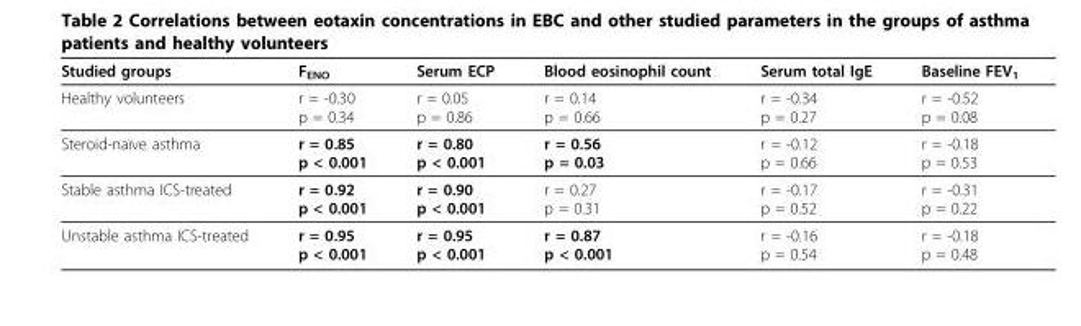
<table><thead><tr><td>Studied groups</td><td>F<sub>ENO</sub></td><td>Serum ECP</td><td>Blood eosinophil count</td><td>Serum total IgE</td><td>Baseline FEV<sub>1</sub></td></tr></thead><tbody><tr><td>Healthy volunteers</td><td>r = -0.30 p = 0.34</td><td>r = 0.05 p = 0.86</td><td>r = 0.14 p = 0.66</td><td>r = -0.34 p = 0.27</td><td>r = -0.52 p = 0.08</td></tr><tr><td>Steroid-naïve asthma</td><td>r = 0.85 p &lt; 0.001</td><td>r = 0.80 p &lt; 0.001</td><td>r = 0.56 p = 0.03</td><td>r = -0.12 p = 0.66</td><td>r = -0.18 p = 0.53</td></tr><tr><td>Stable asthma ICS-treated</td><td>r = 0.92 p &lt; 0.001</td><td>r = 0.90 p &lt; 0.001</td><td>r = 0.27 p = 0.31</td><td>r = -0.17 p = 0.52</td><td>r = -0.31 p = 0.22</td></tr><tr><td>Unstable asthma ICS-treated</td><td>r = 0.95 p &lt; 0.001</td><td>r = 0.95 p &lt; 0.001</td><td>r = 0.87 p &lt; 0.001</td><td>r = -0.16 p = 0.54</td><td>r = -0.18 p = 0.48</td></tr></tbody></table>